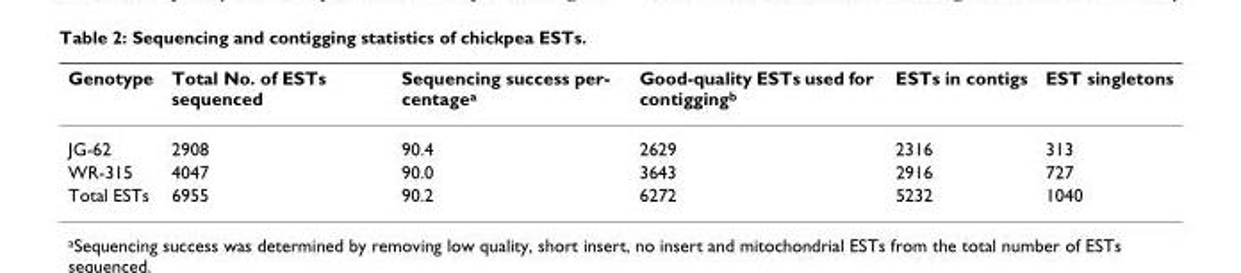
<table><thead><tr><td>Genotype</td><td>Total No. of ESTs sequenced</td><td>Sequencing success per- centagea</td><td>Good-quality ESTs used for contigging<sup>b</sup></td><td>ESTs in contigs</td><td>EST singletons</td></tr></thead><tbody><tr><td>JG-62</td><td>2908</td><td>90.4</td><td>2629</td><td>2316</td><td>313</td></tr><tr><td>WR-315</td><td>4047</td><td>90.0</td><td>3643</td><td>2916</td><td>727</td></tr><tr><td>Total ESTs</td><td>6955</td><td>90.2</td><td>6272</td><td>5232</td><td>1040</td></tr></tbody></table>